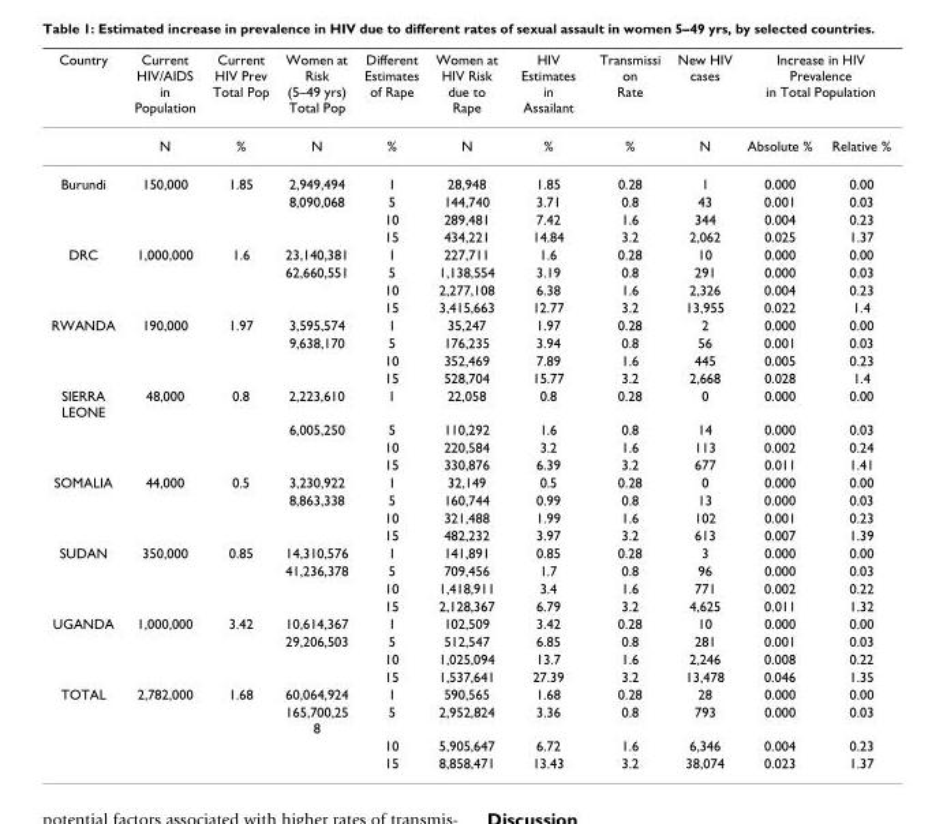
<table><thead><tr><td rowspan="2">Country</td><td rowspan="2">Current HIV/AIDS in Population N</td><td rowspan="2">Current HIV Prev Total Pop %</td><td rowspan="2">Women at Risk (5–49 yrs) Total Pop N</td><td rowspan="2">Different Estimates of Rape %</td><td rowspan="2">Women at HIV Risk due to Rape N</td><td rowspan="2">HIV Estimates in Assailant %</td><td rowspan="2">Transmissi on Rate %</td><td rowspan="2">New HIV cases N</td><td colspan="2">Increase in HIV Prevalence in Total Population</td></tr><tr><td>Absolute %</td><td>Relative %</td></tr></thead><tbody><tr><td rowspan="4">Burundi</td><td>150,000</td><td>1.85</td><td>2,949,494</td><td>1</td><td>28,948</td><td>1.85</td><td>0.28</td><td>1</td><td>0.000</td><td>0.00</td></tr><tr><td></td><td></td><td>8,090,068</td><td>5</td><td>144,740</td><td>3.71</td><td>0.8</td><td>43</td><td>0.001</td><td>0.03</td></tr><tr><td></td><td></td><td></td><td>10</td><td>289,481</td><td>7.42</td><td>1.6</td><td>344</td><td>0.004</td><td>0.23</td></tr><tr><td></td><td></td><td></td><td>15</td><td>434,221</td><td>14.84</td><td>3.2</td><td>2,062</td><td>0.025</td><td>1.37</td></tr><tr><td rowspan="4">DRC</td><td>1,000,000</td><td>1.6</td><td>23,140,381</td><td>1</td><td>227,711</td><td>1.6</td><td>0.28</td><td>10</td><td>0.000</td><td>0.00</td></tr><tr><td></td><td></td><td>62,660,551</td><td>5</td><td>1,138,554</td><td>3.19</td><td>0.8</td><td>291</td><td>0.000</td><td>0.03</td></tr><tr><td></td><td></td><td></td><td>10</td><td>2,277,108</td><td>6.38</td><td>1.6</td><td>2,326</td><td>0.004</td><td>0.23</td></tr><tr><td></td><td></td><td></td><td>15</td><td>3,415,663</td><td>12.77</td><td>3.2</td><td>13,955</td><td>0.022</td><td>1.4</td></tr><tr><td rowspan="4">RWANDA</td><td>190,000</td><td>1.97</td><td>3,595,574</td><td>1</td><td>35,247</td><td>1.97</td><td>0.28</td><td>2</td><td>0.000</td><td>0.00</td></tr><tr><td></td><td></td><td>9,638,170</td><td>5</td><td>176,235</td><td>3.94</td><td>0.8</td><td>56</td><td>0.001</td><td>0.03</td></tr><tr><td></td><td></td><td></td><td>10</td><td>352,469</td><td>7.89</td><td>1.6</td><td>445</td><td>0.005</td><td>0.23</td></tr><tr><td></td><td></td><td></td><td>15</td><td>528,704</td><td>15.77</td><td>3.2</td><td>2,668</td><td>0.028</td><td>1.4</td></tr><tr><td rowspan="4">SIERRA LEONE</td><td>48,000</td><td>0.8</td><td>2,223,610</td><td>1</td><td>22,058</td><td>0.8</td><td>0.28</td><td>0</td><td>0.000</td><td>0.00</td></tr><tr><td></td><td></td><td>6,005,250</td><td>5</td><td>110,292</td><td>1.6</td><td>0.8</td><td>14</td><td>0.000</td><td>0.03</td></tr><tr><td></td><td></td><td></td><td>10</td><td>220,584</td><td>3.2</td><td>1.6</td><td>113</td><td>0.002</td><td>0.24</td></tr><tr><td></td><td></td><td></td><td>15</td><td>330,876</td><td>6.39</td><td>3.2</td><td>677</td><td>0.011</td><td>1.41</td></tr><tr><td rowspan="4">SOMALIA</td><td>44,000</td><td>0.5</td><td>3,230,922</td><td>1</td><td>32,149</td><td>0.5</td><td>0.28</td><td>0</td><td>0.000</td><td>0.00</td></tr><tr><td></td><td></td><td>8,863,338</td><td>5</td><td>160,744</td><td>0.99</td><td>0.8</td><td>13</td><td>0.000</td><td>0.03</td></tr><tr><td></td><td></td><td></td><td>10</td><td>321,488</td><td>1.99</td><td>1.6</td><td>102</td><td>0.001</td><td>0.23</td></tr><tr><td></td><td></td><td></td><td>15</td><td>482,232</td><td>3.97</td><td>3.2</td><td>613</td><td>0.007</td><td>1.39</td></tr><tr><td rowspan="4">SUDAN</td><td>350,000</td><td>0.85</td><td>14,310,576</td><td>1</td><td>141,891</td><td>0.85</td><td>0.28</td><td>3</td><td>0.000</td><td>0.00</td></tr><tr><td></td><td></td><td>41,236,378</td><td>5</td><td>709,456</td><td>1.7</td><td>0.8</td><td>96</td><td>0.000</td><td>0.03</td></tr><tr><td></td><td></td><td></td><td>10</td><td>1,418,911</td><td>3.4</td><td>1.6</td><td>771</td><td>0.002</td><td>0.22</td></tr><tr><td></td><td></td><td></td><td>15</td><td>2,128,367</td><td>6.79</td><td>3.2</td><td>4,625</td><td>0.011</td><td>1.32</td></tr><tr><td rowspan="4">UGANDA</td><td>1,000,000</td><td>3.42</td><td>10,614,367</td><td>1</td><td>102,509</td><td>3.42</td><td>0.28</td><td>10</td><td>0.000</td><td>0.00</td></tr><tr><td></td><td></td><td>29,206,503</td><td>5</td><td>512,547</td><td>6.85</td><td>0.8</td><td>281</td><td>0.001</td><td>0.03</td></tr><tr><td></td><td></td><td></td><td>10</td><td>1,025,094</td><td>13.7</td><td>1.6</td><td>2,246</td><td>0.008</td><td>0.22</td></tr><tr><td></td><td></td><td></td><td>15</td><td>1,537,641</td><td>27.39</td><td>3.2</td><td>13,478</td><td>0.046</td><td>1.35</td></tr><tr><td rowspan="4">TOTAL</td><td>2,782,000</td><td>1.68</td><td>60,064,924</td><td>1</td><td>590,565</td><td>1.68</td><td>0.28</td><td>28</td><td>0.000</td><td>0.00</td></tr><tr><td></td><td></td><td>165,700,25 8</td><td>5</td><td>2,952,824</td><td>3.36</td><td>0.8</td><td>793</td><td>0.000</td><td>0.03</td></tr><tr><td></td><td></td><td></td><td>10</td><td>5,905,647</td><td>6.72</td><td>1.6</td><td>6,346</td><td>0.004</td><td>0.23</td></tr><tr><td></td><td></td><td></td><td>15</td><td>8,858,471</td><td>13.43</td><td>3.2</td><td>38,074</td><td>0.023</td><td>1.37</td></tr></tbody></table>